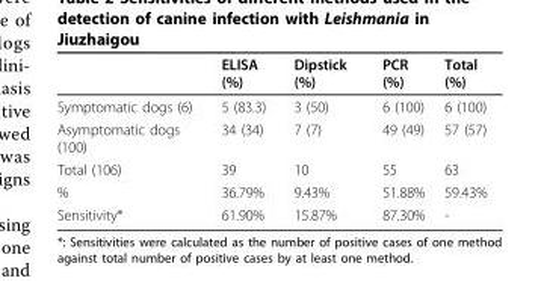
<table><thead><tr><td></td><td>ELISA (%)</td><td>Dipstick (%)</td><td>PCR (%)</td><td>Total (%)</td></tr></thead><tbody><tr><td>Symptomatic dogs (6)</td><td>5 (83.3)</td><td>3 (50)</td><td>6 (100)</td><td>6 (100)</td></tr><tr><td>Asymptomatic dogs (100)</td><td>34 (34)</td><td>7 (7)</td><td>49 (49)</td><td>57 (57)</td></tr><tr><td>Total (106)</td><td>39</td><td>10</td><td>55</td><td>63</td></tr><tr><td>%</td><td>36.79%</td><td>9.43%</td><td>51.88%</td><td>59.43%</td></tr><tr><td>Sensitivity*</td><td>61.90%</td><td>15.87%</td><td>87.30%</td><td>-</td></tr></tbody></table>